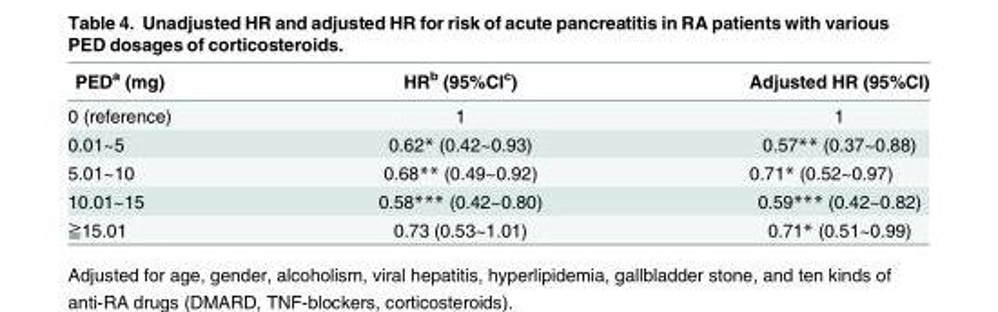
<table><thead><tr><td>PED<sup>a</sup> (mg)</td><td>HR<sup>b</sup> (95%CI<sup>c</sup>)</td><td>Adjusted HR (95%CI)</td></tr></thead><tbody><tr><td>0 (reference)</td><td>1</td><td>1</td></tr><tr><td>0.01~5</td><td>0.62* (0.42~0.93)</td><td>0.57** (0.37~0.88)</td></tr><tr><td>5.01~10</td><td>0.68** (0.49~0.92)</td><td>0.71* (0.52~0.97)</td></tr><tr><td>10.01~15</td><td>0.58*** (0.42~0.80)</td><td>0.59*** (0.42~0.82)</td></tr><tr><td>≧15.01</td><td>0.73 (0.53~1.01)</td><td>0.71* (0.51~0.99)</td></tr></tbody></table>